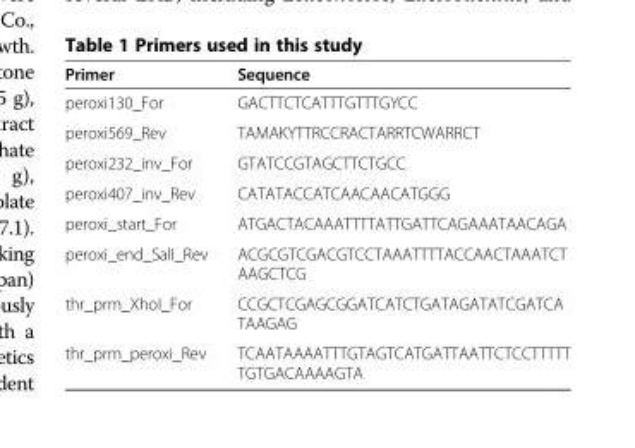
<table><thead><tr><td>Primer</td><td>Sequence</td></tr></thead><tbody><tr><td>peroxi130_For</td><td>GACTTCTCATTTGTTTGYCC</td></tr><tr><td>peroxi569_Rev</td><td>TAMAKYTTRCCRACTARRTCWARRCT</td></tr><tr><td>peroxi232_inv_For</td><td>GTATCCGTAGCTTCTGCC</td></tr><tr><td>peroxi407_inv_Rev</td><td>CATATACCATCAACAACATGGG</td></tr><tr><td>peroxi_start_For</td><td>ATGACTACAAATTTTATTGATTCAGAAATAACAGA</td></tr><tr><td>peroxi_end_SalI_Rev</td><td>ACGCGTCGACGTCCTAAATTTTACCAACTAAATCT AAGCTCG</td></tr><tr><td>thr_prm_XhoI_For</td><td>CCGCTCGAGCGGATCATCTGATAGATATCGATCA TAAGAG</td></tr><tr><td>thr_prm_peroxi_Rev</td><td>TCAATAAAATTTGTAGTCATGATTAATTCTCCTTTTT TGTGACAAAAGTA</td></tr></tbody></table>